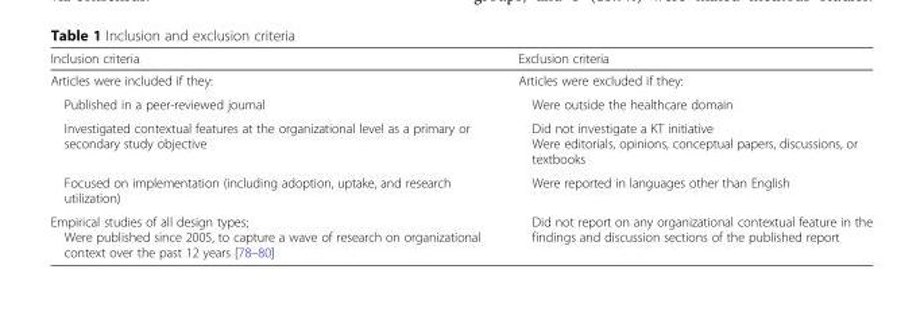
<table><thead><tr><td>Inclusion criteria</td><td>Exclusion criteria</td></tr></thead><tbody><tr><td>Articles were included if they:</td><td>Articles were excluded if they:</td></tr><tr><td>Published in a peer-reviewed journal</td><td>Were outside the healthcare domain</td></tr><tr><td>Investigated contextual features at the organizational level as a primary or secondary study objective</td><td>Did not investigate a KT initiative Were editorials, opinions, conceptual papers, discussions, or textbooks</td></tr><tr><td>Focused on implementation (including adoption, uptake, and research utilization)</td><td>Were reported in languages other than English</td></tr><tr><td>Empirical studies of all design types; Were published since 2005, to capture a wave of research on organizational context over the past 12 years [78–80]</td><td>Did not report on any organizational contextual feature in the findings and discussion sections of the published report</td></tr></tbody></table>